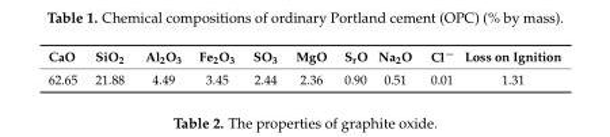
<table><thead><tr><td>CaO</td><td>SiO<sub>2</sub></td><td>Al<sub>2</sub>O<sub>3</sub></td><td>Fe<sub>2</sub>O<sub>3</sub></td><td>SO<sub>3</sub></td><td>MgO</td><td>S<sub>r</sub>O</td><td>Na<sub>2</sub>O</td><td>Cl<sup>−</sup></td><td>Loss on Ignition</td></tr></thead><tbody><tr><td>62.65</td><td>21.88</td><td>4.49</td><td>3.45</td><td>2.44</td><td>2.36</td><td>0.90</td><td>0.51</td><td>0.01</td><td>1.31</td></tr></tbody></table>